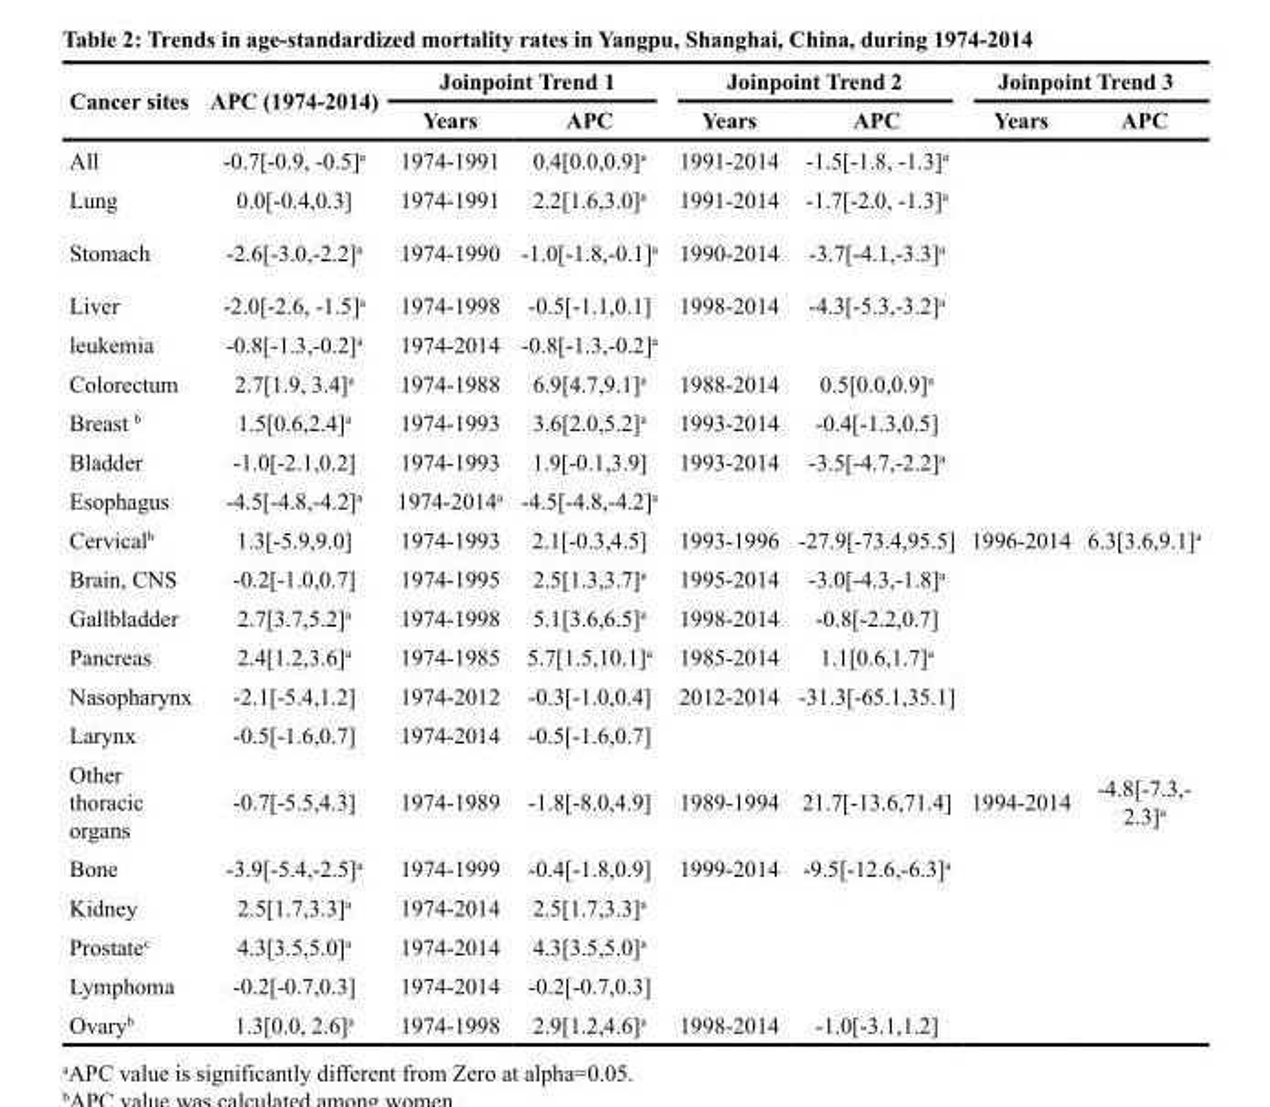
<table><thead><tr><td rowspan="2">Cancer sites</td><td rowspan="2">APC (1974-2014)</td><td colspan="2">Joinpoint Trend 1</td><td colspan="2">Joinpoint Trend 2</td><td colspan="2">Joinpoint Trend 3</td></tr><tr><td>Years</td><td>APC</td><td>Years</td><td>APC</td><td>Years</td><td>APC</td></tr></thead><tbody><tr><td>All</td><td>-0.7[-0.9, -0.5]<sup>a</sup></td><td>1974-1991</td><td>0.4[0.0,0.9]<sup>a</sup></td><td>1991-2014</td><td>-1.5[-1.8, -1.3]<sup>a</sup></td><td></td><td></td></tr><tr><td>Lung</td><td>0.0[-0.4,0.3]</td><td>1974-1991</td><td>2.2[1.6,3.0]<sup>a</sup></td><td>1991-2014</td><td>-1.7[-2.0, -1.3]<sup>a</sup></td><td></td><td></td></tr><tr><td>Stomach</td><td>-2.6[-3.0,-2.2]<sup>a</sup></td><td>1974-1990</td><td>-1.0[-1.8,-0.1]<sup>a</sup></td><td>1990-2014</td><td>-3.7[-4.1,-3.3]<sup>a</sup></td><td></td><td></td></tr><tr><td>Liver</td><td>-2.0[-2.6, -1.5]<sup>a</sup></td><td>1974-1998</td><td>-0.5[-1.1,0.1]</td><td>1998-2014</td><td>-4.3[-5.3,-3.2]<sup>a</sup></td><td></td><td></td></tr><tr><td>leukemia</td><td>-0.8[-1.3,-0.2]<sup>a</sup></td><td>1974-2014</td><td>-0.8[-1.3,-0.2]<sup>a</sup></td><td></td><td></td><td></td><td></td></tr><tr><td>Colorectum</td><td>2.7[1.9, 3.4]<sup>a</sup></td><td>1974-1988</td><td>6.9[4.7,9.1]<sup>a</sup></td><td>1988-2014</td><td>0.5[0.0,0.9]<sup>a</sup></td><td></td><td></td></tr><tr><td>Breast <sup>b</sup></td><td>1.5[0.6,2.4]<sup>a</sup></td><td>1974-1993</td><td>3.6[2.0,5.2]<sup>a</sup></td><td>1993-2014</td><td>-0.4[-1.3,0.5]</td><td></td><td></td></tr><tr><td>Bladder</td><td>-1.0[-2.1,0.2]</td><td>1974-1993</td><td>1.9[-0.1,3.9]</td><td>1993-2014</td><td>-3.5[-4.7,-2.2]<sup>a</sup></td><td></td><td></td></tr><tr><td>Esophagus</td><td>-4.5[-4.8,-4.2]<sup>a</sup></td><td>1974-2014<sup>a</sup></td><td>-4.5[-4.8,-4.2]<sup>a</sup></td><td></td><td></td><td></td><td></td></tr><tr><td>Cervical<sup>b</sup></td><td>1.3[-5.9,9.0]</td><td>1974-1993</td><td>2.1[-0.3,4.5]</td><td>1993-1996</td><td>-27.9[-73.4,95.5]</td><td>1996-2014</td><td>6.3[3.6,9.1]<sup>a</sup></td></tr><tr><td>Brain, CNS</td><td>-0.2[-1.0,0.7]</td><td>1974-1995</td><td>2.5[1.3,3.7]<sup>a</sup></td><td>1995-2014</td><td>-3.0[-4.3,-1.8]<sup>a</sup></td><td></td><td></td></tr><tr><td>Gallbladder</td><td>2.7[3.7,5.2]<sup>a</sup></td><td>1974-1998</td><td>5.1[3.6,6.5]<sup>a</sup></td><td>1998-2014</td><td>-0.8[-2.2,0.7]</td><td></td><td></td></tr><tr><td>Pancreas</td><td>2.4[1.2,3.6]<sup>a</sup></td><td>1974-1985</td><td>5.7[1.5,10.1]<sup>a</sup></td><td>1985-2014</td><td>1.1[0.6,1.7]<sup>a</sup></td><td></td><td></td></tr><tr><td>Nasopharynx</td><td>-2.1[-5.4,1.2]</td><td>1974-2012</td><td>-0.3[-1.0,0.4]</td><td>2012-2014</td><td>-31.3[-65.1,35.1]</td><td></td><td></td></tr><tr><td>Larynx</td><td>-0.5[-1.6,0.7]</td><td>1974-2014</td><td>-0.5[-1.6,0.7]</td><td></td><td></td><td></td><td></td></tr><tr><td>Other thoracic organs</td><td>-0.7[-5.5,4.3]</td><td>1974-1989</td><td>-1.8[-8.0,4.9]</td><td>1989-1994</td><td>21.7[-13.6,71.4]</td><td>1994-2014</td><td>-4.8[-7.3,- 2.3]<sup>a</sup></td></tr><tr><td>Bone</td><td>-3.9[-5.4,-2.5]<sup>a</sup></td><td>1974-1999</td><td>-0.4[-1.8,0.9]</td><td>1999-2014</td><td>-9.5[-12.6,-6.3]<sup>a</sup></td><td></td><td></td></tr><tr><td>Kidney</td><td>2.5[1.7,3.3]<sup>a</sup></td><td>1974-2014</td><td>2.5[1.7,3.3]<sup>a</sup></td><td></td><td></td><td></td><td></td></tr><tr><td>Prostate<sup>c</sup></td><td>4.3[3.5,5.0]<sup>a</sup></td><td>1974-2014</td><td>4.3[3.5,5.0]<sup>a</sup></td><td></td><td></td><td></td><td></td></tr><tr><td>Lymphoma</td><td>-0.2[-0.7,0.3]</td><td>1974-2014</td><td>-0.2[-0.7,0.3]</td><td></td><td></td><td></td><td></td></tr><tr><td>Ovary<sup>b</sup></td><td>1.3[0.0, 2.6]<sup>a</sup></td><td>1974-1998</td><td>2.9[1.2,4.6]<sup>a</sup></td><td>1998-2014</td><td>-1.0[-3.1,1.2]</td><td></td><td></td></tr></tbody></table>